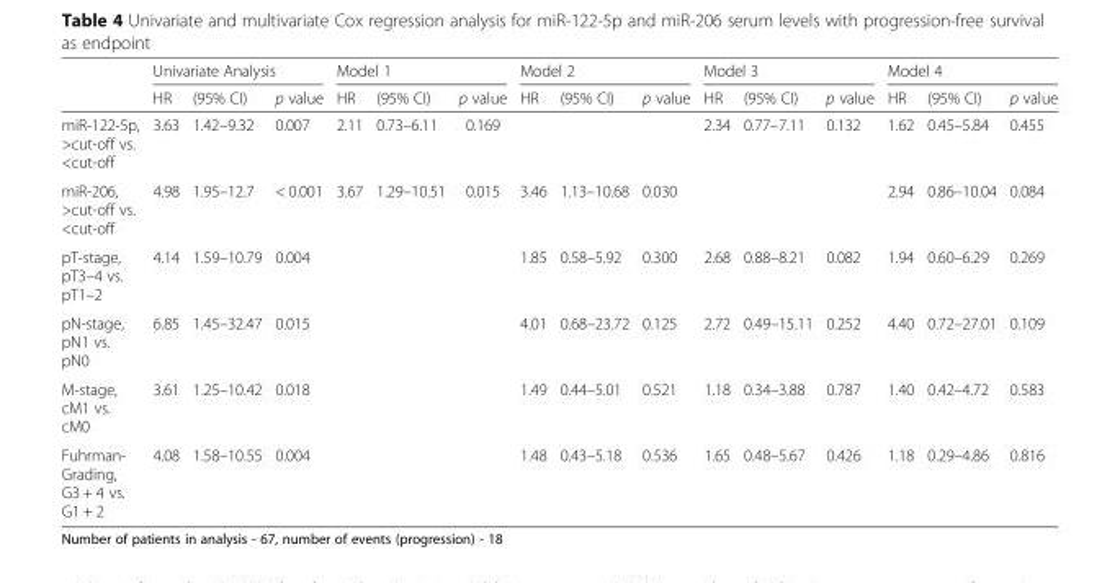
<table><thead><tr><td rowspan="2"></td><td colspan="3">Univariate Analysis</td><td colspan="3">Model 1</td><td colspan="3">Model 2</td><td colspan="3">Model 3</td><td colspan="3">Model 4</td></tr><tr><td>HR</td><td>(95% CI)</td><td>p value</td><td>HR</td><td>(95% CI)</td><td>p value</td><td>HR</td><td>(95% CI)</td><td>p value</td><td>HR</td><td>(95% CI)</td><td>p value</td><td>HR</td><td>(95% CI)</td><td>p value</td></tr></thead><tbody><tr><td>miR-122-5p, &gt;cut-off vs. &lt;cut-off</td><td>3.63</td><td>1.42–9.32</td><td>0.007</td><td>2.11</td><td>0.73–6.11</td><td>0.169</td><td></td><td></td><td></td><td>2.34</td><td>0.77–7.11</td><td>0.132</td><td>1.62</td><td>0.45–5.84</td><td>0.455</td></tr><tr><td>miR-206, &gt;cut-off vs. &lt;cut-off</td><td>4.98</td><td>1.95–12.7</td><td>&lt; 0.001</td><td>3.67</td><td>1.29–10.51</td><td>0.015</td><td>3.46</td><td>1.13–10.68</td><td>0.030</td><td></td><td></td><td></td><td>2.94</td><td>0.86–10.04</td><td>0.084</td></tr><tr><td>pT-stage, pT3–4 vs. pT1–2</td><td>4.14</td><td>1.59–10.79</td><td>0.004</td><td></td><td></td><td></td><td>1.85</td><td>0.58–5.92</td><td>0.300</td><td>2.68</td><td>0.88–8.21</td><td>0.082</td><td>1.94</td><td>0.60–6.29</td><td>0.269</td></tr><tr><td>pN-stage, pN1 vs. pN0</td><td>6.85</td><td>1.45–32.47</td><td>0.015</td><td></td><td></td><td></td><td>4.01</td><td>0.68–23.72</td><td>0.125</td><td>2.72</td><td>0.49–15.11</td><td>0.252</td><td>4.40</td><td>0.72–27.01</td><td>0.109</td></tr><tr><td>M-stage, cM1 vs. cM0</td><td>3.61</td><td>1.25–10.42</td><td>0.018</td><td></td><td></td><td></td><td>1.49</td><td>0.44–5.01</td><td>0.521</td><td>1.18</td><td>0.34–3.88</td><td>0.787</td><td>1.40</td><td>0.42–4.72</td><td>0.583</td></tr><tr><td>Fuhrman- Grading, G3 + 4 vs. G1 + 2</td><td>4.08</td><td>1.58–10.55</td><td>0.004</td><td></td><td></td><td></td><td>1.48</td><td>0.43–5.18</td><td>0.536</td><td>1.65</td><td>0.48–5.67</td><td>0.426</td><td>1.18</td><td>0.29–4.86</td><td>0.816</td></tr></tbody></table>